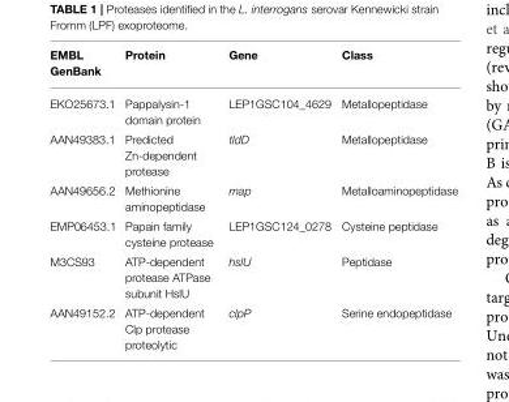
<table><thead><tr><td>EMBL GenBank</td><td>Protein</td><td>Gene</td><td>Class</td></tr></thead><tbody><tr><td>EKO25673.1</td><td>Pappalysin-1 domain protein</td><td>LEP1GSC104_4629</td><td>Metallopeptidase</td></tr><tr><td>AAN49383.1</td><td>Predicted Zn-dependent protease</td><td>tldD</td><td>Metallopeptidase</td></tr><tr><td>AAN49656.2</td><td>Methionine aminopeptidase</td><td>map</td><td>Metalloaminopeptidase</td></tr><tr><td>EMP06453.1</td><td>Papain family cysteine protease</td><td>LEP1GSC124_0278</td><td>Cysteine peptidase</td></tr><tr><td>M3CS93</td><td>ATP-dependent protease ATPase subunit HslU</td><td>hslU</td><td>Peptidase</td></tr><tr><td>AAN49152.2</td><td>ATP-dependent Clp protease proteolytic</td><td>clpP</td><td>Serine endopeptidase</td></tr></tbody></table>